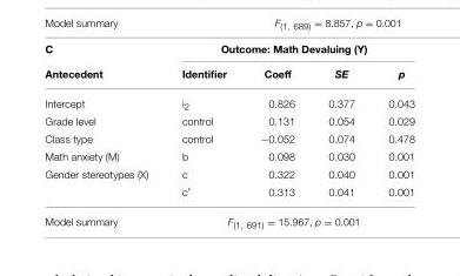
<table><thead><tr><td rowspan="2">C Antecedent</td><td colspan="4">Outcome: Math Devaluing (Y)</td></tr><tr><td>Identifier</td><td>Coeff</td><td>SE</td><td>p</td></tr></thead><tbody><tr><td>Intercept</td><td>i<sub>2</sub></td><td>0.826</td><td>0.377</td><td>0.043</td></tr><tr><td>Grade level</td><td>control</td><td>0.131</td><td>0.054</td><td>0.029</td></tr><tr><td>Class type</td><td>control</td><td>−0.052</td><td>0.074</td><td>0.478</td></tr><tr><td>Math anxiety (M)</td><td>b</td><td>0.098</td><td>0.030</td><td>0.001</td></tr><tr><td rowspan="2">Gender stereotypes (X)</td><td>c</td><td>0.322</td><td>0.040</td><td>0.001</td></tr><tr><td>c′</td><td>0.313</td><td>0.041</td><td>0.001</td></tr><tr><td>Model summary</td><td colspan="4">F<sub>(1, 691)</sub> = 15.967, p = 0.001</td></tr></tbody></table>